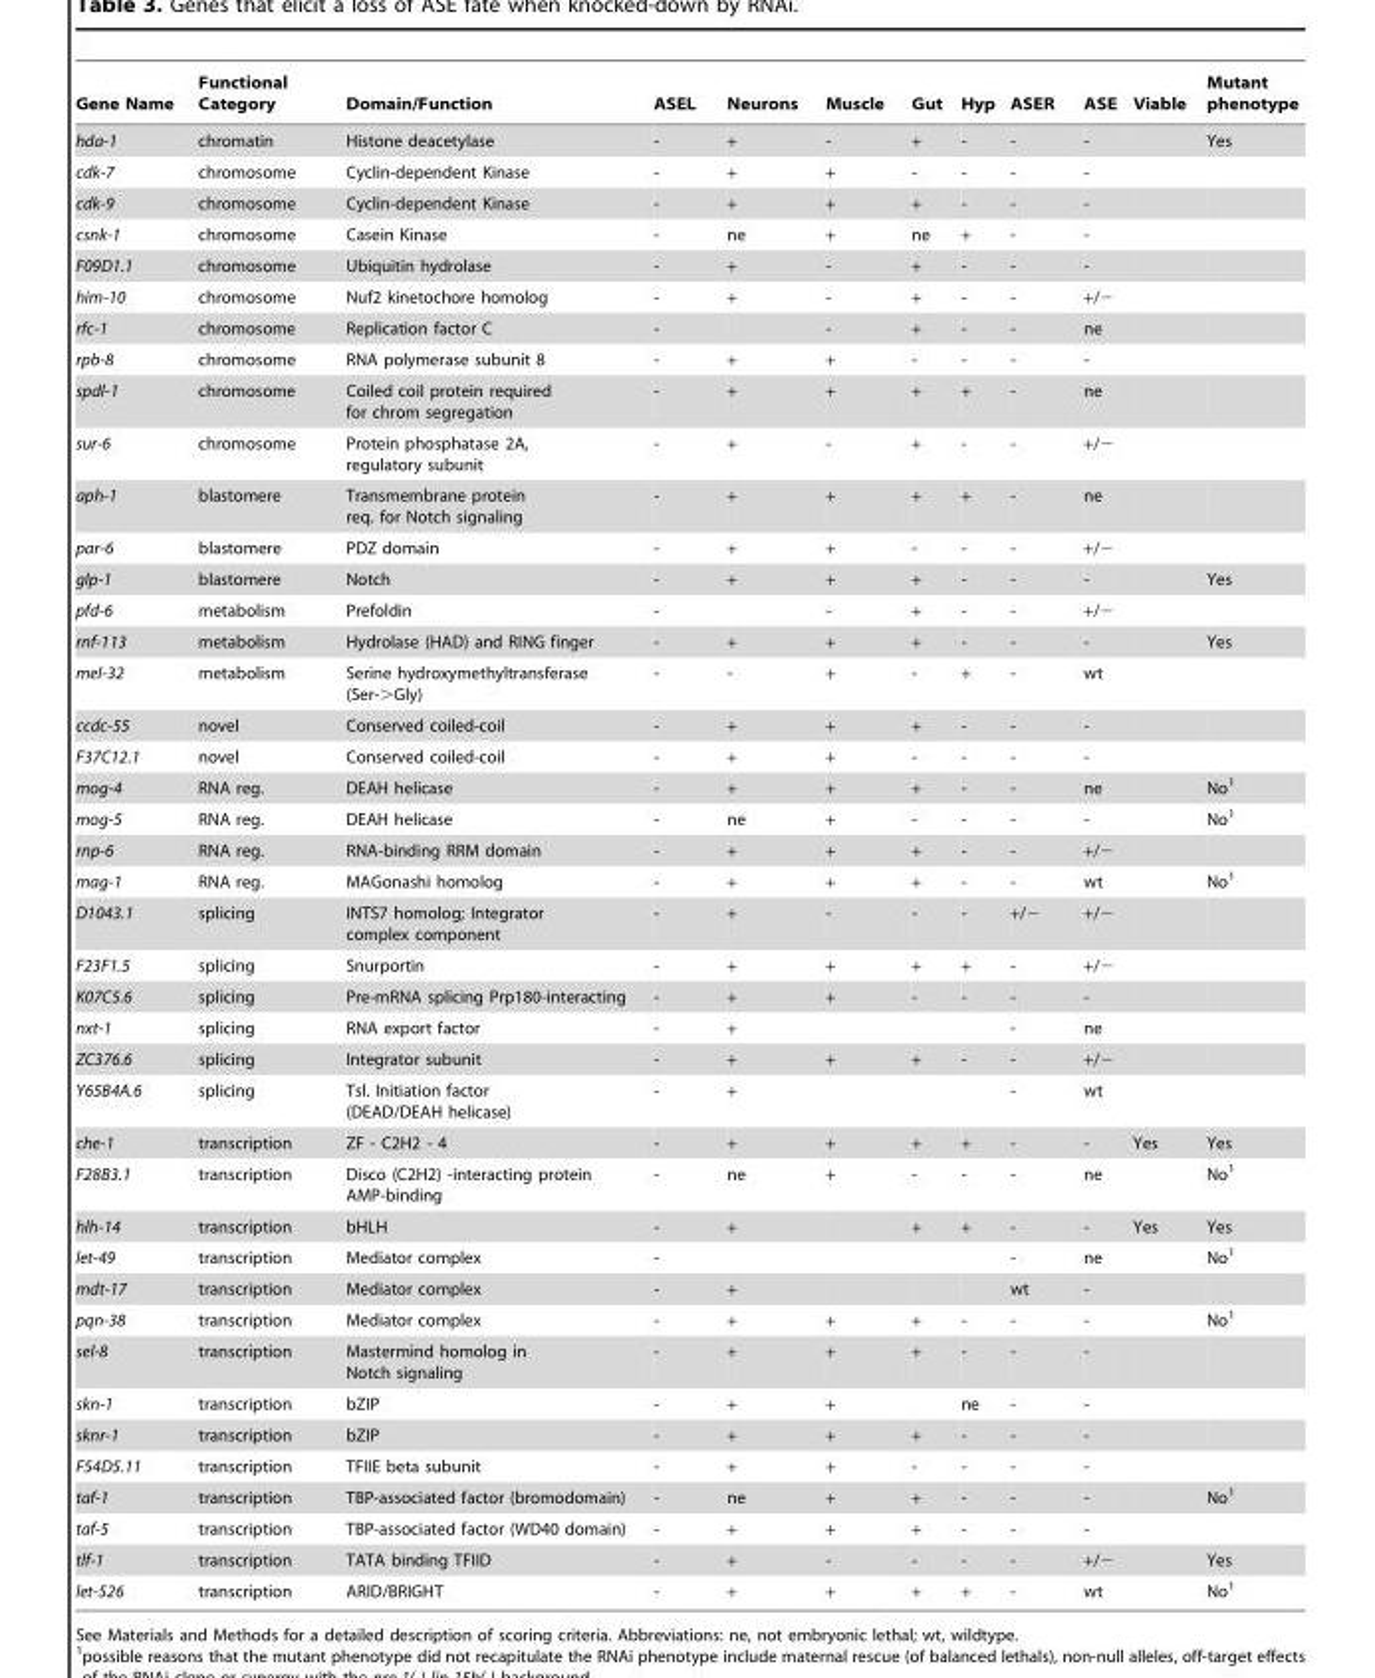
<table><thead><tr><td>Gene Name</td><td>Functional Category</td><td>Domain/Function</td><td>ASEL</td><td>Neurons</td><td>Muscle</td><td>Gut</td><td>Hyp</td><td>ASER</td><td>ASE</td><td>Viable</td><td>Mutant phenotype</td></tr></thead><tbody><tr><td>hda-1</td><td>chromatin</td><td>Histone deacetylase</td><td>-</td><td>+</td><td>-</td><td>+</td><td>-</td><td>-</td><td>-</td><td></td><td>Yes</td></tr><tr><td>cdk-7</td><td>chromosome</td><td>Cyclin-dependent Kinase</td><td>-</td><td>+</td><td>+</td><td>-</td><td>-</td><td>-</td><td>-</td><td></td><td></td></tr><tr><td>cdk-9</td><td>chromosome</td><td>Cyclin-dependent Kinase</td><td>-</td><td>+</td><td>+</td><td>+</td><td>-</td><td>-</td><td>-</td><td></td><td></td></tr><tr><td>csnk-1</td><td>chromosome</td><td>Casein Kinase</td><td>-</td><td>ne</td><td>+</td><td>ne</td><td>+</td><td>-</td><td>-</td><td></td><td></td></tr><tr><td>F09D1.1</td><td>chromosome</td><td>Ubiquitin hydrolase</td><td>-</td><td>+</td><td>-</td><td>+</td><td>-</td><td>-</td><td>-</td><td></td><td></td></tr><tr><td>him-10</td><td>chromosome</td><td>Nuf2 kinetochore homolog</td><td>-</td><td>+</td><td>-</td><td>+</td><td>-</td><td>-</td><td>+/−</td><td></td><td></td></tr><tr><td>rfc-1</td><td>chromosome</td><td>Replication factor C</td><td>-</td><td></td><td>-</td><td>+</td><td>-</td><td>-</td><td>ne</td><td></td><td></td></tr><tr><td>rpb-8</td><td>chromosome</td><td>RNA polymerase subunit 8</td><td>-</td><td>+</td><td>+</td><td>-</td><td>-</td><td>-</td><td>-</td><td></td><td></td></tr><tr><td>spdl-1</td><td>chromosome</td><td>Coiled coil protein required for chrom segregation</td><td>-</td><td>+</td><td>+</td><td>+</td><td>+</td><td>-</td><td>ne</td><td></td><td></td></tr><tr><td>sur-6</td><td>chromosome</td><td>Protein phosphatase 2A, regulatory subunit</td><td>-</td><td>+</td><td>-</td><td>+</td><td>-</td><td>-</td><td>+/−</td><td></td><td></td></tr><tr><td>aph-1</td><td>blastomere</td><td>Transmembrane protein req. for Notch signaling</td><td>-</td><td>+</td><td>+</td><td>+</td><td>+</td><td>-</td><td>ne</td><td></td><td></td></tr><tr><td>par-6</td><td>blastomere</td><td>PDZ domain</td><td>-</td><td>+</td><td>+</td><td>-</td><td>-</td><td>-</td><td>+/−</td><td></td><td></td></tr><tr><td>glp-1</td><td>blastomere</td><td>Notch</td><td>-</td><td>+</td><td>+</td><td>+</td><td>-</td><td>-</td><td>-</td><td></td><td>Yes</td></tr><tr><td>pfd-6</td><td>metabolism</td><td>Prefoldin</td><td>-</td><td></td><td>-</td><td>+</td><td>-</td><td>-</td><td>+/−</td><td></td><td></td></tr><tr><td>rnf-113</td><td>metabolism</td><td>Hydrolase (HAD) and RING finger</td><td>-</td><td>+</td><td>+</td><td>+</td><td>-</td><td>-</td><td>-</td><td></td><td>Yes</td></tr><tr><td>mel-32</td><td>metabolism</td><td>Serine hydroxymethyltransferase (Ser-&gt;Gly)</td><td>-</td><td>-</td><td>+</td><td>-</td><td>+</td><td>-</td><td>wt</td><td></td><td></td></tr><tr><td>ccdc-55</td><td>novel</td><td>Conserved coiled-coil</td><td>-</td><td>+</td><td>+</td><td>+</td><td>-</td><td>-</td><td>-</td><td></td><td></td></tr><tr><td>F37C12.1</td><td>novel</td><td>Conserved coiled-coil</td><td>-</td><td>+</td><td>+</td><td>-</td><td>-</td><td>-</td><td>-</td><td></td><td></td></tr><tr><td>mog-4</td><td>RNA reg.</td><td>DEAH helicase</td><td>-</td><td>+</td><td>+</td><td>+</td><td>-</td><td>-</td><td>ne</td><td></td><td>No<sup>1</sup></td></tr><tr><td>mog-5</td><td>RNA reg.</td><td>DEAH helicase</td><td>-</td><td>ne</td><td>+</td><td>-</td><td>-</td><td>-</td><td>-</td><td></td><td>No<sup>1</sup></td></tr><tr><td>rnp-6</td><td>RNA reg.</td><td>RNA-binding RRM domain</td><td>-</td><td>+</td><td>+</td><td>+</td><td>-</td><td>-</td><td>+/−</td><td></td><td></td></tr><tr><td>mag-1</td><td>RNA reg.</td><td>MAGonashi homolog</td><td>-</td><td>+</td><td>+</td><td>+</td><td>-</td><td>-</td><td>wt</td><td></td><td>No<sup>1</sup></td></tr><tr><td>D1043.1</td><td>splicing</td><td>INTS7 homolog; Integrator complex component</td><td>-</td><td>+</td><td>-</td><td>-</td><td>-</td><td>+/−</td><td>+/−</td><td></td><td></td></tr><tr><td>F23F1.5</td><td>splicing</td><td>Snurportin</td><td>-</td><td>+</td><td>+</td><td>+</td><td>+</td><td>-</td><td>+/−</td><td></td><td></td></tr><tr><td>K07C5.6</td><td>splicing</td><td>Pre-mRNA splicing Prp180-interacting</td><td>-</td><td>+</td><td>+</td><td>-</td><td>-</td><td>-</td><td>-</td><td></td><td></td></tr><tr><td>nxt-1</td><td>splicing</td><td>RNA export factor</td><td>-</td><td>+</td><td></td><td></td><td></td><td>-</td><td>ne</td><td></td><td></td></tr><tr><td>ZC376.6</td><td>splicing</td><td>Integrator subunit</td><td>-</td><td>+</td><td>+</td><td>+</td><td>-</td><td>-</td><td>+/−</td><td></td><td></td></tr><tr><td>Y65B4A.6</td><td>splicing</td><td>Tsl. Initiation factor (DEAD/DEAH helicase)</td><td>-</td><td>+</td><td></td><td></td><td></td><td>-</td><td>wt</td><td></td><td></td></tr><tr><td>che-1</td><td>transcription</td><td>ZF - C2H2 - 4</td><td>-</td><td>+</td><td>+</td><td>+</td><td>+</td><td>-</td><td>-</td><td>Yes</td><td>Yes</td></tr><tr><td>F28B3.1</td><td>transcription</td><td>Disco (C2H2) -interacting protein AMP-binding</td><td>-</td><td>ne</td><td>+</td><td>-</td><td>-</td><td>-</td><td>ne</td><td></td><td>No<sup>1</sup></td></tr><tr><td>hlh-14</td><td>transcription</td><td>bHLH</td><td>-</td><td>+</td><td></td><td>+</td><td>+</td><td>-</td><td>-</td><td>Yes</td><td>Yes</td></tr><tr><td>let-49</td><td>transcription</td><td>Mediator complex</td><td>-</td><td></td><td></td><td></td><td></td><td>-</td><td>ne</td><td></td><td>No<sup>1</sup></td></tr><tr><td>mdt-17</td><td>transcription</td><td>Mediator complex</td><td>-</td><td>+</td><td></td><td></td><td></td><td>wt</td><td>-</td><td></td><td></td></tr><tr><td>pqn-38</td><td>transcription</td><td>Mediator complex</td><td>-</td><td>+</td><td>+</td><td>+</td><td>-</td><td>-</td><td>-</td><td></td><td>No<sup>1</sup></td></tr><tr><td>sel-8</td><td>transcription</td><td>Mastermind homolog in Notch signaling</td><td>-</td><td>+</td><td>+</td><td>+</td><td>-</td><td>-</td><td>-</td><td></td><td></td></tr><tr><td>skn-1</td><td>transcription</td><td>bZIP</td><td>-</td><td>+</td><td>+</td><td></td><td>ne</td><td>-</td><td>-</td><td></td><td></td></tr><tr><td>sknr-1</td><td>transcription</td><td>bZIP</td><td>-</td><td>+</td><td>+</td><td>+</td><td>-</td><td>-</td><td>-</td><td></td><td></td></tr><tr><td>F54D5.11</td><td>transcription</td><td>TFIIE beta subunit</td><td>-</td><td>+</td><td>+</td><td>-</td><td>-</td><td>-</td><td>-</td><td></td><td></td></tr><tr><td>taf-1</td><td>transcription</td><td>TBP-associated factor (bromodomain)</td><td>-</td><td>ne</td><td>+</td><td>+</td><td>-</td><td>-</td><td>-</td><td></td><td>No<sup>1</sup></td></tr><tr><td>taf-5</td><td>transcription</td><td>TBP-associated factor (WD40 domain)</td><td>-</td><td>+</td><td>+</td><td>+</td><td>-</td><td>-</td><td>-</td><td></td><td></td></tr><tr><td>tlf-1</td><td>transcription</td><td>TATA binding TFIID</td><td>-</td><td>+</td><td>-</td><td>-</td><td>-</td><td>-</td><td>+/−</td><td></td><td>Yes</td></tr><tr><td>let-526</td><td>transcription</td><td>ARID/BRIGHT</td><td>-</td><td>+</td><td>+</td><td>+</td><td>+</td><td>-</td><td>wt</td><td></td><td>No<sup>1</sup></td></tr></tbody></table>